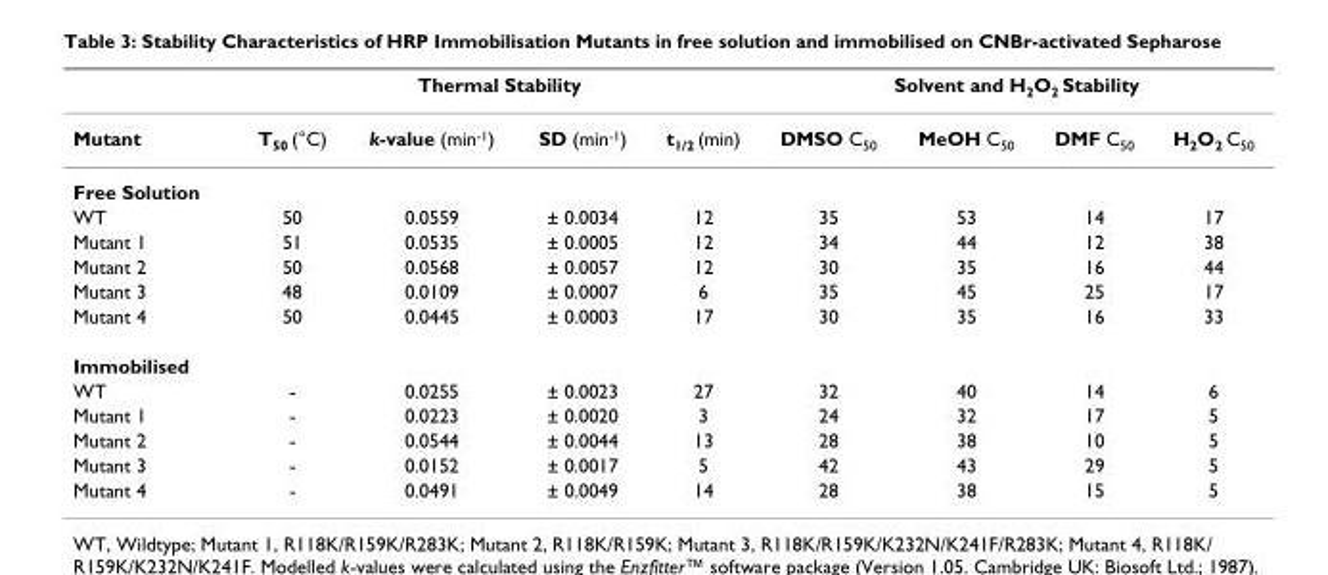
<table><thead><tr><td rowspan="2">Mutant</td><td colspan="4">Thermal Stability</td><td colspan="4">Solvent and H<sub>2</sub>O<sub>2</sub> Stability</td></tr><tr><td>T<sub>50</sub> (°C)</td><td>k-value (min<sup>-1</sup>)</td><td>SD (min<sup>-1</sup>)</td><td>t<sub>1/2</sub> (min)</td><td>DMSO C<sub>50</sub></td><td>MeOH C<sub>50</sub></td><td>DMF C<sub>50</sub></td><td>H<sub>2</sub>O<sub>2</sub> C<sub>50</sub></td></tr></thead><tbody><tr><td colspan="9">Free Solution</td></tr><tr><td>WT</td><td>50</td><td>0.0559</td><td>± 0.0034</td><td>12</td><td>35</td><td>53</td><td>14</td><td>17</td></tr><tr><td>Mutant 1</td><td>51</td><td>0.0535</td><td>± 0.0005</td><td>12</td><td>34</td><td>44</td><td>12</td><td>38</td></tr><tr><td>Mutant 2</td><td>50</td><td>0.0568</td><td>± 0.0057</td><td>12</td><td>30</td><td>35</td><td>16</td><td>44</td></tr><tr><td>Mutant 3</td><td>48</td><td>0.0109</td><td>± 0.0007</td><td>6</td><td>35</td><td>45</td><td>25</td><td>17</td></tr><tr><td>Mutant 4</td><td>50</td><td>0.0445</td><td>± 0.0003</td><td>17</td><td>30</td><td>35</td><td>16</td><td>33</td></tr><tr><td colspan="9">Immobilised</td></tr><tr><td>WT</td><td>-</td><td>0.0255</td><td>± 0.0023</td><td>27</td><td>32</td><td>40</td><td>14</td><td>6</td></tr><tr><td>Mutant 1</td><td>-</td><td>0.0223</td><td>± 0.0020</td><td>3</td><td>24</td><td>32</td><td>17</td><td>5</td></tr><tr><td>Mutant 2</td><td>-</td><td>0.0544</td><td>± 0.0044</td><td>13</td><td>28</td><td>38</td><td>10</td><td>5</td></tr><tr><td>Mutant 3</td><td>-</td><td>0.0152</td><td>± 0.0017</td><td>5</td><td>42</td><td>43</td><td>29</td><td>5</td></tr><tr><td>Mutant 4</td><td>-</td><td>0.0491</td><td>± 0.0049</td><td>14</td><td>28</td><td>38</td><td>15</td><td>5</td></tr></tbody></table>